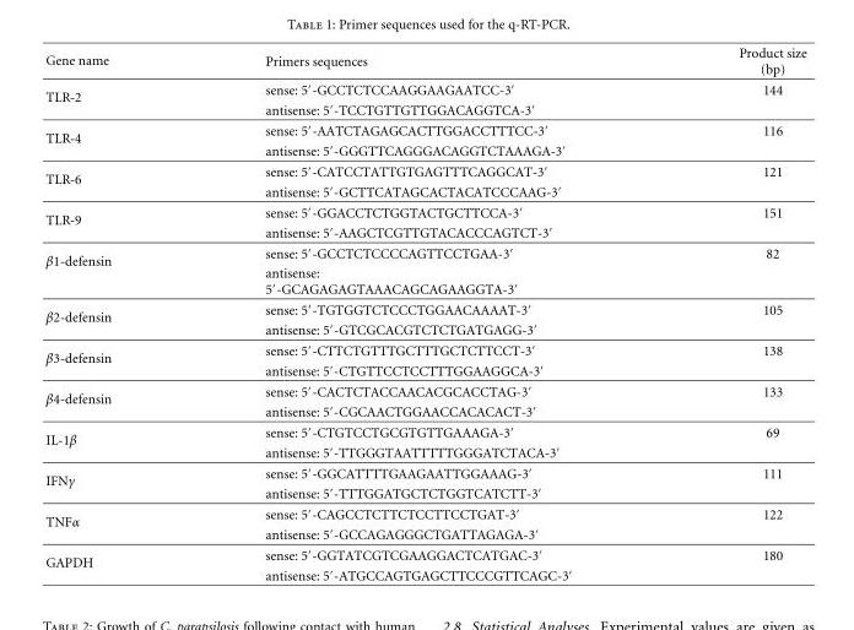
<table><thead><tr><td>Gene name</td><td>Primers sequences</td><td>Product size (bp)</td></tr></thead><tbody><tr><td rowspan="2">TLR-2</td><td>sense: 5′-GCCTCTCCAAGGAAGAATCC-3′</td><td>144</td></tr><tr><td>antisense: 5′-TCCTGTTGTTGGACAGGTCA-3′</td><td></td></tr><tr><td rowspan="2">TLR-4</td><td>sense: 5′-AATCTAGAGCACTTGGACCTTTCC-3′</td><td>116</td></tr><tr><td>antisense: 5′-GGGTTCAGGGACAGGTCTAAAGA-3′</td><td></td></tr><tr><td rowspan="2">TLR-6</td><td>sense: 5′-CATCCTATTGTGAGTTTCAGGCAT-3′</td><td>121</td></tr><tr><td>antisense: 5′-GCTTCATAGCACTACATCCCAAG-3′</td><td></td></tr><tr><td rowspan="2">TLR-9</td><td>sense: 5′-GGACCTCTGGTACTGCTTCCA-3′</td><td>151</td></tr><tr><td>antisense: 5′-AAGCTCGTTGTACACCCAGTCT-3′</td><td></td></tr><tr><td rowspan="2">β1-defensin</td><td>sense: 5′-GCCTCTCCCCAGTTCCTGAA-3′</td><td>82</td></tr><tr><td>antisense: 5′-GCAGAGAGTAAACAGCAGAAGGTA-3′</td><td></td></tr><tr><td rowspan="2">β2-defensin</td><td>sense: 5′-TGTGGTCTCCCTGGAACAAAAT-3′</td><td>105</td></tr><tr><td>antisense: 5′-GTCGCACGTCTCTGATGAGG-3′</td><td></td></tr><tr><td rowspan="2">β3-defensin</td><td>sense: 5′-CTTCTGTTTGCTTTGCTCTTCCT-3′</td><td>138</td></tr><tr><td>antisense: 5′-CTGTTCCTCCTTTGGAAGGCA-3′</td><td></td></tr><tr><td rowspan="2">β4-defensin</td><td>sense: 5′-CACTCTACCAACACGCACCTAG-3′</td><td>133</td></tr><tr><td>antisense: 5′-CGCAACTGGAACCACACACT-3′</td><td></td></tr><tr><td rowspan="2">IL-1β</td><td>sense: 5′-CTGTCCTGCGTGTTGAAAGA-3′</td><td>69</td></tr><tr><td>antisense: 5′-TTGGGTAATTTTTGGGATCTACA-3′</td><td></td></tr><tr><td rowspan="2">IFNγ</td><td>sense: 5′-GGCATTTTGAAGAATTGGAAAG-3′</td><td>111</td></tr><tr><td>antisense: 5′-TTTGGATGCTCTGGTCATCTT-3′</td><td></td></tr><tr><td rowspan="2">TNFα</td><td>sense: 5′-CAGCCTCTTCTCCTTCCTGAT-3′</td><td>122</td></tr><tr><td>antisense: 5′-GCCAGAGGGCTGATTAGAGA-3′</td><td></td></tr><tr><td rowspan="2">GAPDH</td><td>sense: 5′-GGTATCGTCGAAGGACTCATGAC-3′</td><td>180</td></tr><tr><td>antisense: 5′-ATGCCAGTGAGCTTCCCGTTCAGC-3′</td><td></td></tr></tbody></table>